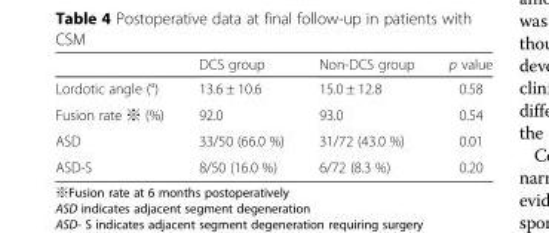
<table><thead><tr><td></td><td>DCS group</td><td>Non-DCS group</td><td>p value</td></tr></thead><tbody><tr><td>Lordotic angle (°)</td><td>13.6 ± 10.6</td><td>15.0 ± 12.8</td><td>0.58</td></tr><tr><td>Fusion rate ※ (%)</td><td>92.0</td><td>93.0</td><td>0.54</td></tr><tr><td>ASD</td><td>33/50 (66.0 %)</td><td>31/72 (43.0 %)</td><td>0.01</td></tr><tr><td>ASD-S</td><td>8/50 (16.0 %)</td><td>6/72 (8.3 %)</td><td>0.20</td></tr></tbody></table>